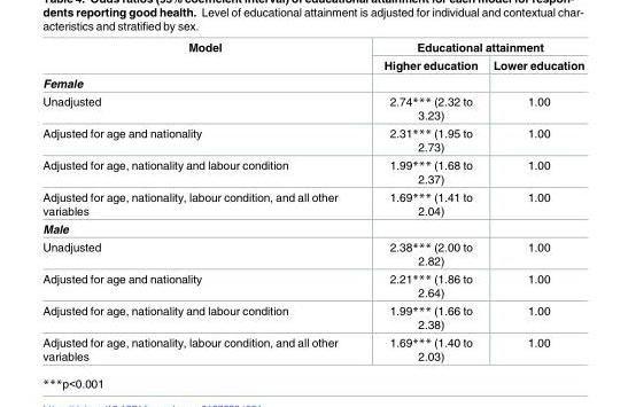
<table><thead><tr><td rowspan="2">Model</td><td colspan="2">Educational attainment</td></tr><tr><td>Higher education</td><td>Lower education</td></tr></thead><tbody><tr><td colspan="3">Female</td></tr><tr><td>Unadjusted</td><td>2.74*** (2.32 to 3.23)</td><td>1.00</td></tr><tr><td>Adjusted for age and nationality</td><td>2.31*** (1.95 to 2.73)</td><td>1.00</td></tr><tr><td>Adjusted for age, nationality and labour condition</td><td>1.99*** (1.68 to 2.37)</td><td>1.00</td></tr><tr><td>Adjusted for age, nationality, labour condition, and all other variables</td><td>1.69*** (1.41 to 2.04)</td><td>1.00</td></tr><tr><td colspan="3">Male</td></tr><tr><td>Unadjusted</td><td>2.38*** (2.00 to 2.82)</td><td>1.00</td></tr><tr><td>Adjusted for age and nationality</td><td>2.21*** (1.86 to 2.64)</td><td>1.00</td></tr><tr><td>Adjusted for age, nationality and labour condition</td><td>1.99*** (1.66 to 2.38)</td><td>1.00</td></tr><tr><td>Adjusted for age, nationality, labour condition, and all other variables</td><td>1.69*** (1.40 to 2.03)</td><td>1.00</td></tr></tbody></table>